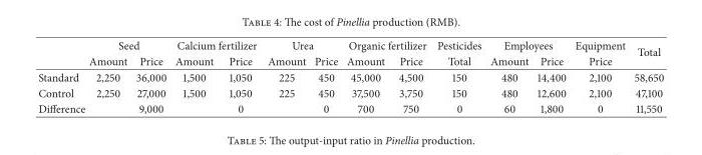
<table><thead><tr><td rowspan="2"></td><td colspan="2">Seed</td><td colspan="2">Calcium fertilizer</td><td colspan="2">Urea</td><td colspan="2">Organic fertilizer</td><td rowspan="2">Pesticides Total</td><td colspan="2">Employees</td><td rowspan="2">Equipment Price</td><td rowspan="2">Total</td></tr><tr><td>Amount</td><td>Price</td><td>Amount</td><td>Price</td><td>Amount</td><td>Price</td><td>Amount</td><td>Price</td><td>Amount</td><td>Price</td></tr></thead><tbody><tr><td>Standard</td><td>2,250</td><td>36,000</td><td>1,500</td><td>1,050</td><td>225</td><td>450</td><td>45,000</td><td>4,500</td><td>150</td><td>480</td><td>14,400</td><td>2,100</td><td>58,650</td></tr><tr><td>Control</td><td>2,250</td><td>27,000</td><td>1,500</td><td>1,050</td><td>225</td><td>450</td><td>37,500</td><td>3,750</td><td>150</td><td>480</td><td>12,600</td><td>2,100</td><td>47,100</td></tr><tr><td>Difference</td><td></td><td>9,000</td><td></td><td>0</td><td></td><td>0</td><td>700</td><td>750</td><td>0</td><td>60</td><td>1,800</td><td>0</td><td>11,550</td></tr></tbody></table>